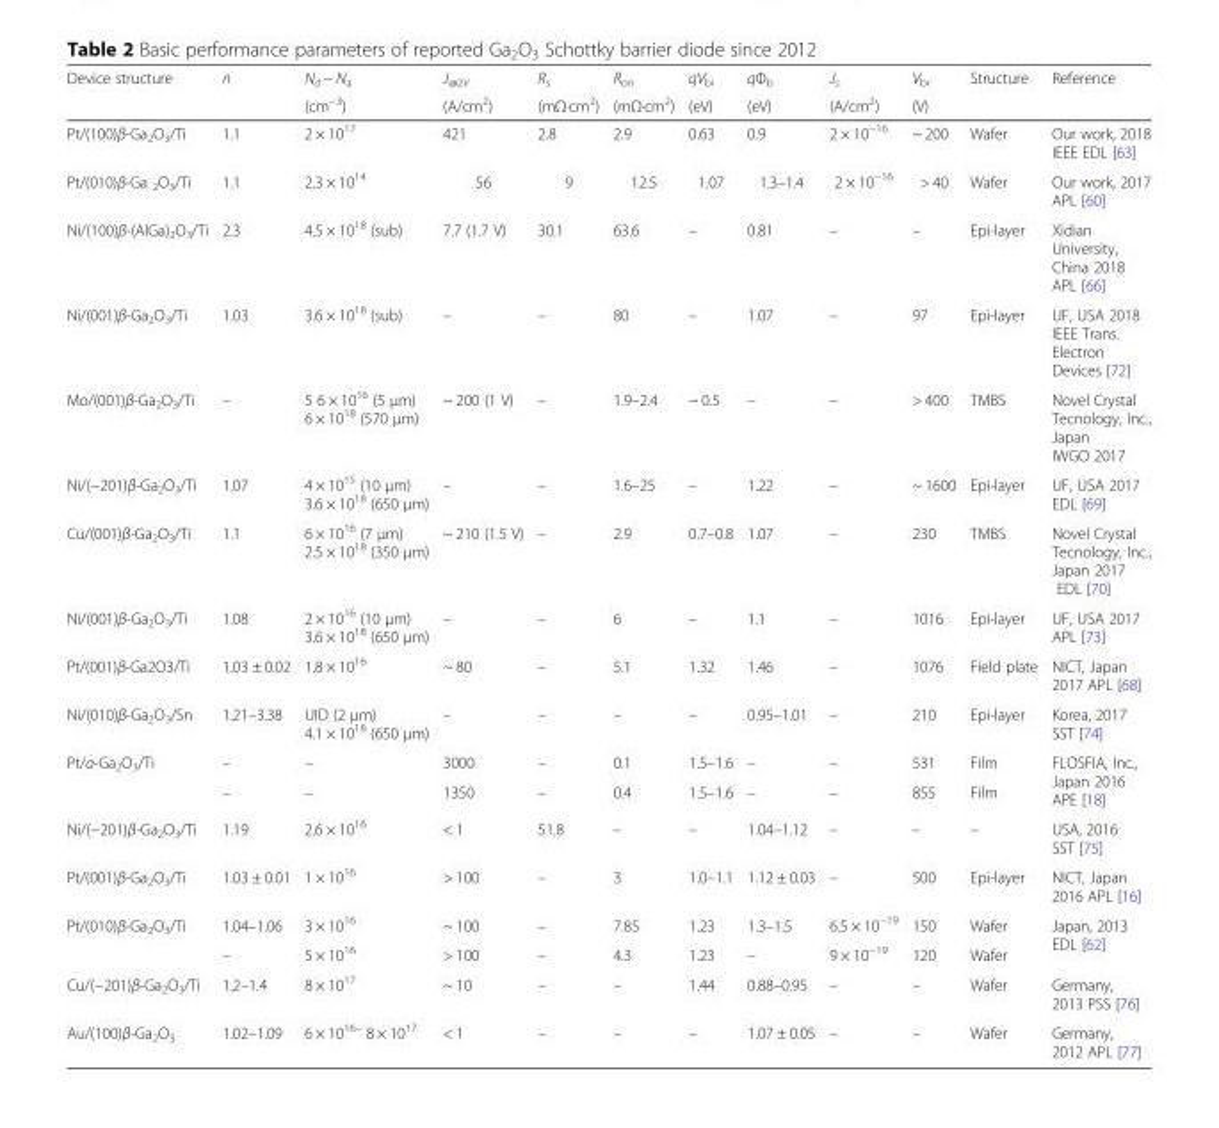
<table><thead><tr><td rowspan="2">Device structure</td><td rowspan="2">n</td><td rowspan="2">N<sub>d</sub> − N<sub>a</sub> (cm<sup>−3</sup>)</td><td rowspan="2">J<sub>@2V</sub> (A/cm<sup>2</sup>)</td><td rowspan="2">R<sub>s</sub> (mΩ·cm<sup>2</sup>)</td><td rowspan="2">R<sub>on</sub> (mΩ·cm<sup>2</sup>)</td><td rowspan="2">qV<sub>bi</sub> (eV)</td><td rowspan="2">qΦ<sub>b</sub> (eV)</td><td rowspan="2">J<sub>s</sub> (A/cm<sup>2</sup>)</td><td rowspan="2">V<sub>br</sub> (V)</td><td rowspan="2">Structure</td><td rowspan="2">Reference</td></tr><tr></tr></thead><tbody><tr><td>Pt/(100)β-Ga<sub>2</sub>O<sub>3</sub>/Ti</td><td>1.1</td><td>2 × 10<sup>17</sup></td><td>421</td><td>2.8</td><td>2.9</td><td>0.63</td><td>0.9</td><td>2 × 10<sup>−16</sup></td><td>~ 200</td><td>Wafer</td><td>Our work, 2018 IEEE EDL [63]</td></tr><tr><td>Pt/(010)β-Ga <sub>2</sub>O<sub>3</sub>/Ti</td><td>1.1</td><td>2.3 × 10<sup>14</sup></td><td>56</td><td>9</td><td>12.5</td><td>1.07</td><td>1.3–1.4</td><td>2 × 10<sup>−16</sup></td><td>&gt; 40</td><td>Wafer</td><td>Our work, 2017 APL [60]</td></tr><tr><td>Ni/(100)β-(AlGa)<sub>2</sub>O<sub>3</sub>/Ti</td><td>2.3</td><td>4.5 × 10<sup>18</sup> (sub)</td><td>7.7 (1.7 V)</td><td>30.1</td><td>63.6</td><td>–</td><td>0.81</td><td>–</td><td>–</td><td>Epi-layer</td><td>Xidian University, China 2018 APL [66]</td></tr><tr><td>Ni/(001)β-Ga<sub>2</sub>O<sub>3</sub>/Ti</td><td>1.03</td><td>3.6 × 10<sup>18</sup> (sub)</td><td>–</td><td>–</td><td>80</td><td>–</td><td>1.07</td><td>–</td><td>97</td><td>Epi-layer</td><td>UF, USA 2018 IEEE Trans. Electron Devices [72]</td></tr><tr><td>Mo/(001)β-Ga<sub>2</sub>O<sub>3</sub>/Ti</td><td>–</td><td>5 6 × 10<sup>16</sup> (5 μm) 6 × 10<sup>18</sup> (570 μm)</td><td>~ 200 (1 V)</td><td>–</td><td>1.9–2.4</td><td>~ 0.5</td><td>–</td><td>–</td><td>&gt; 400</td><td>TMBS</td><td>Novel Crystal Tecnology, Inc., Japan IWGO 2017</td></tr><tr><td>Ni/(−201)β-Ga<sub>2</sub>O<sub>3</sub>/Ti</td><td>1.07</td><td>4 × 10<sup>15</sup> (10 μm) 3.6 × 10<sup>18</sup> (650 μm)</td><td>–</td><td>–</td><td>1.6–25</td><td>–</td><td>1.22</td><td>–</td><td>~ 1600</td><td>Epi-layer</td><td>UF, USA 2017 EDL [69]</td></tr><tr><td>Cu/(001)β-Ga<sub>2</sub>O<sub>3</sub>/Ti</td><td>1.1</td><td>6 × 10<sup>16</sup> (7 μm) 2.5 × 10<sup>18</sup> (350 μm)</td><td>~ 210 (1.5 V)</td><td>–</td><td>2.9</td><td>0.7–0.8</td><td>1.07</td><td>–</td><td>230</td><td>TMBS</td><td>Novel Crystal Tecnology, Inc., Japan 2017 EDL [70]</td></tr><tr><td>Ni/(001)β-Ga<sub>2</sub>O<sub>3</sub>/Ti</td><td>1.08</td><td>2 × 10<sup>16</sup> (10 μm) 3.6 × 10<sup>18</sup> (650 μm)</td><td>–</td><td>–</td><td>6</td><td>–</td><td>1.1</td><td>–</td><td>1016</td><td>Epi-layer</td><td>UF, USA 2017 APL [73]</td></tr><tr><td>Pt/(001)β-Ga2O3/Ti</td><td>1.03 ± 0.02</td><td>1.8 × 10<sup>16</sup></td><td>~ 80</td><td>–</td><td>5.1</td><td>1.32</td><td>1.46</td><td>–</td><td>1076</td><td>Field plate</td><td>NICT, Japan 2017 APL [68]</td></tr><tr><td>Ni/(010)β-Ga<sub>2</sub>O<sub>3</sub>/Sn</td><td>1.21–3.38</td><td>UID (2 μm) 4.1 × 10<sup>18</sup> (650 μm)</td><td>–</td><td>–</td><td>–</td><td>–</td><td>0.95–1.01</td><td>–</td><td>210</td><td>Epi-layer</td><td>Korea, 2017 SST [74]</td></tr><tr><td rowspan="2">Pt/α-Ga<sub>2</sub>O<sub>3</sub>/Ti</td><td>–</td><td>–</td><td>3000</td><td>–</td><td>0.1</td><td>1.5–1.6</td><td>–</td><td>–</td><td>531</td><td>Film</td><td rowspan="2">FLOSFIA, Inc., Japan 2016 APE [18]</td></tr><tr><td>–</td><td>–</td><td>1350</td><td>–</td><td>0.4</td><td>1.5–1.6</td><td>–</td><td>–</td><td>855</td><td>Film</td></tr><tr><td>Ni/(−201)β-Ga<sub>2</sub>O<sub>3</sub>/Ti</td><td>1.19</td><td>2.6 × 10<sup>16</sup></td><td>&lt; 1</td><td>51.8</td><td>–</td><td>–</td><td>1.04–1.12</td><td>–</td><td>–</td><td>–</td><td>USA, 2016 SST [75]</td></tr><tr><td>Pt/(001)β-Ga<sub>2</sub>O<sub>3</sub>/Ti</td><td>1.03 ± 0.01</td><td>1 × 10<sup>16</sup></td><td>&gt; 100</td><td>–</td><td>3</td><td>1.0–1.1</td><td>1.12 ± 0.03</td><td>–</td><td>500</td><td>Epi-layer</td><td>NICT, Japan 2016 APL [16]</td></tr><tr><td rowspan="2">Pt/(010)β-Ga<sub>2</sub>O<sub>3</sub>/Ti</td><td>1.04–1.06</td><td>3 × 10<sup>16</sup></td><td>~ 100</td><td>–</td><td>7.85</td><td>1.23</td><td>1.3–1.5</td><td>6.5 × 10<sup>−19</sup></td><td>150</td><td>Wafer</td><td rowspan="2">Japan, 2013 EDL [62]</td></tr><tr><td>–</td><td>5 × 10<sup>16</sup></td><td>&gt; 100</td><td>–</td><td>4.3</td><td>1.23</td><td>–</td><td>9 × 10<sup>−19</sup></td><td>120</td><td>Wafer</td></tr><tr><td>Cu/(−201)β-Ga<sub>2</sub>O<sub>3</sub>/Ti</td><td>1.2–1.4</td><td>8 × 10<sup>17</sup></td><td>~ 10</td><td>–</td><td>–</td><td>1.44</td><td>0.88–0.95</td><td>–</td><td>–</td><td>Wafer</td><td>Germany, 2013 PSS [76]</td></tr><tr><td>Au/(100)β-Ga<sub>2</sub>O<sub>3</sub></td><td>1.02–1.09</td><td>6 × 10<sup>16−</sup> 8 × 10<sup>17</sup></td><td>&lt; 1</td><td>–</td><td>–</td><td>–</td><td>1.07 ± 0.05</td><td>–</td><td>–</td><td>Wafer</td><td>Germany, 2012 APL [77]</td></tr></tbody></table>